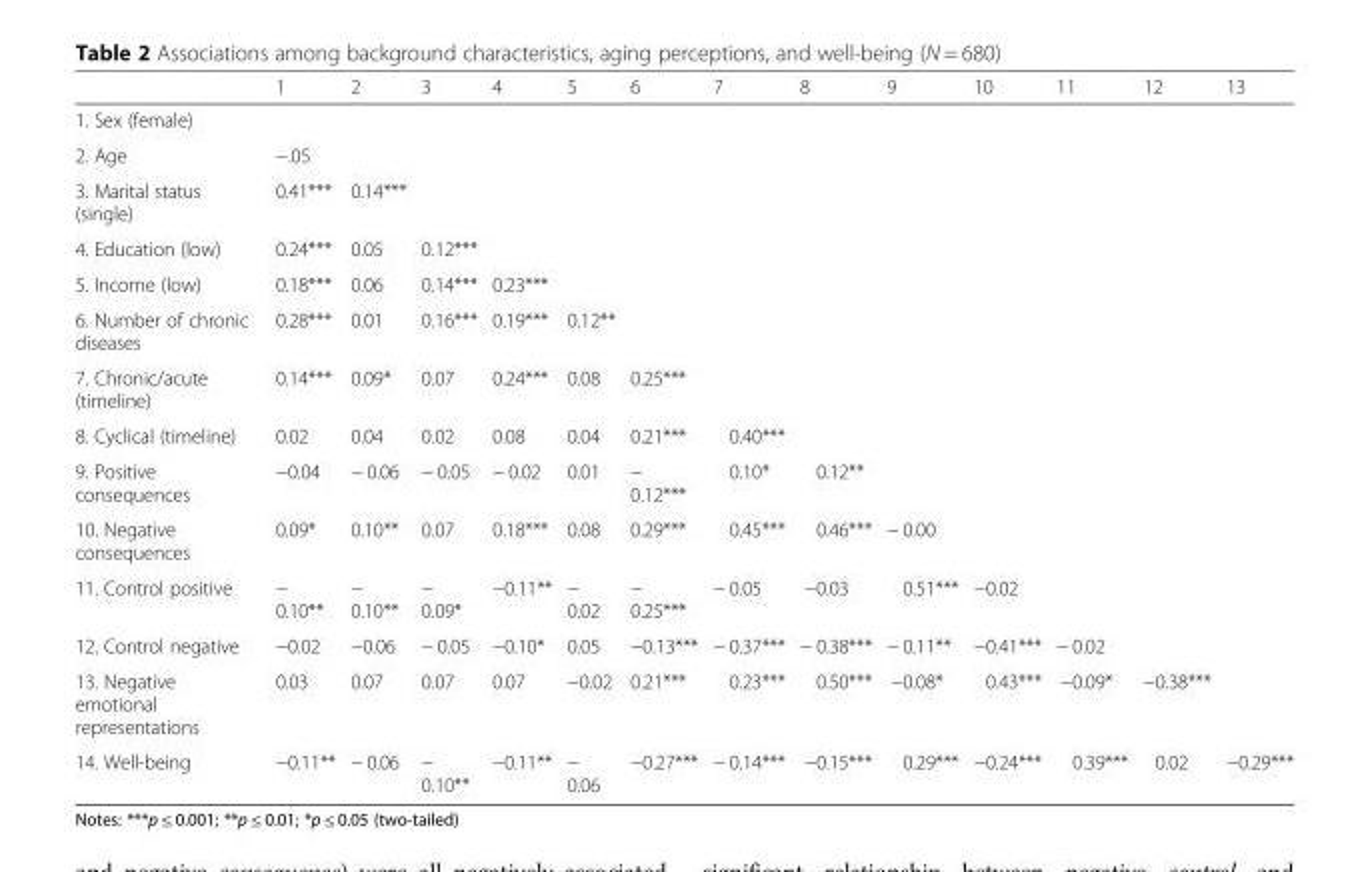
<table><thead><tr><td></td><td>1</td><td>2</td><td>3</td><td>4</td><td>5</td><td>6</td><td>7</td><td>8</td><td>9</td><td>10</td><td>11</td><td>12</td><td>13</td></tr></thead><tbody><tr><td colspan="14">1. Sex (female)</td></tr><tr><td>2. Age</td><td>−.05</td><td></td><td></td><td></td><td></td><td></td><td></td><td></td><td></td><td></td><td></td><td></td><td></td></tr><tr><td>3. Marital status (single)</td><td>0.41***</td><td>0.14***</td><td></td><td></td><td></td><td></td><td></td><td></td><td></td><td></td><td></td><td></td><td></td></tr><tr><td>4. Education (low)</td><td>0.24***</td><td>0.05</td><td>0.12***</td><td></td><td></td><td></td><td></td><td></td><td></td><td></td><td></td><td></td><td></td></tr><tr><td>5. Income (low)</td><td>0.18***</td><td>0.06</td><td>0.14***</td><td>0.23***</td><td></td><td></td><td></td><td></td><td></td><td></td><td></td><td></td><td></td></tr><tr><td>6. Number of chronic diseases</td><td>0.28***</td><td>0.01</td><td>0.16***</td><td>0.19***</td><td>0.12**</td><td></td><td></td><td></td><td></td><td></td><td></td><td></td><td></td></tr><tr><td>7. Chronic/acute (timeline)</td><td>0.14***</td><td>0.09*</td><td>0.07</td><td>0.24***</td><td>0.08</td><td>0.25***</td><td></td><td></td><td></td><td></td><td></td><td></td><td></td></tr><tr><td>8. Cyclical (timeline)</td><td>0.02</td><td>0.04</td><td>0.02</td><td>0.08</td><td>0.04</td><td>0.21***</td><td>0.40***</td><td></td><td></td><td></td><td></td><td></td><td></td></tr><tr><td>9. Positive consequences</td><td>−0.04</td><td>− 0.06</td><td>− 0.05</td><td>− 0.02</td><td>0.01</td><td>− 0.12***</td><td>0.10*</td><td>0.12**</td><td></td><td></td><td></td><td></td><td></td></tr><tr><td>10. Negative consequences</td><td>0.09*</td><td>0.10**</td><td>0.07</td><td>0.18***</td><td>0.08</td><td>0.29***</td><td>0.45***</td><td>0.46***</td><td>− 0.00</td><td></td><td></td><td></td><td></td></tr><tr><td>11. Control positive</td><td>− 0.10**</td><td>− 0.10**</td><td>− 0.09*</td><td>−0.11**</td><td>− 0.02</td><td>− 0.25***</td><td>− 0.05</td><td>−0.03</td><td>0.51***</td><td>−0.02</td><td></td><td></td><td></td></tr><tr><td>12. Control negative</td><td>−0.02</td><td>−0.06</td><td>− 0.05</td><td>−0.10*</td><td>0.05</td><td>−0.13***</td><td>− 0.37***</td><td>− 0.38***</td><td>− 0.11**</td><td>−0.41***</td><td>− 0.02</td><td></td><td></td></tr><tr><td>13. Negative emotional representations</td><td>0.03</td><td>0.07</td><td>0.07</td><td>0.07</td><td>−0.02</td><td>0.21***</td><td>0.23***</td><td>0.50***</td><td>−0.08*</td><td>0.43***</td><td>−0.09*</td><td>−0.38***</td><td></td></tr><tr><td>14. Well-being</td><td>−0.11**</td><td>− 0.06</td><td>− 0.10**</td><td>−0.11**</td><td>− 0.06</td><td>−0.27***</td><td>− 0.14***</td><td>−0.15***</td><td>0.29***</td><td>−0.24***</td><td>0.39***</td><td>0.02</td><td>−0.29***</td></tr></tbody></table>